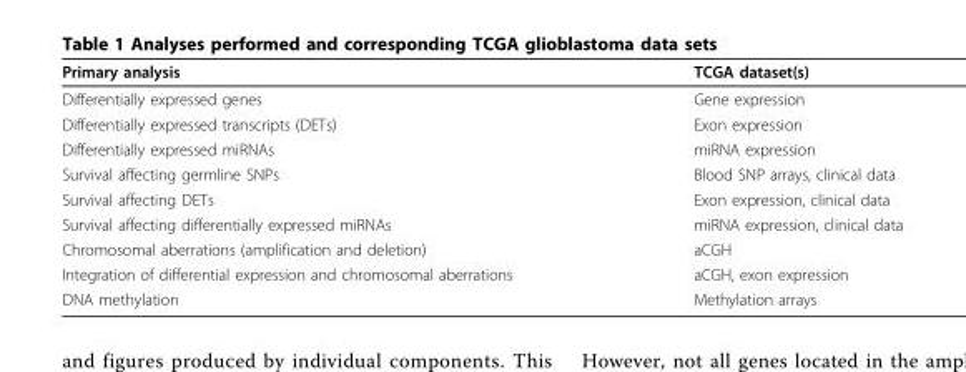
<table><thead><tr><td>Primary analysis</td><td>TCGA dataset(s)</td></tr></thead><tbody><tr><td>Differentially expressed genes</td><td>Gene expression</td></tr><tr><td>Differentially expressed transcripts (DETs)</td><td>Exon expression</td></tr><tr><td>Differentially expressed miRNAs</td><td>miRNA expression</td></tr><tr><td>Survival affecting germline SNPs</td><td>Blood SNP arrays, clinical data</td></tr><tr><td>Survival affecting DETs</td><td>Exon expression, clinical data</td></tr><tr><td>Survival affecting differentially expressed miRNAs</td><td>miRNA expression, clinical data</td></tr><tr><td>Chromosomal aberrations (amplification and deletion)</td><td>aCGH</td></tr><tr><td>Integration of differential expression and chromosomal aberrations</td><td>aCGH, exon expression</td></tr><tr><td>DNA methylation</td><td>Methylation arrays</td></tr></tbody></table>